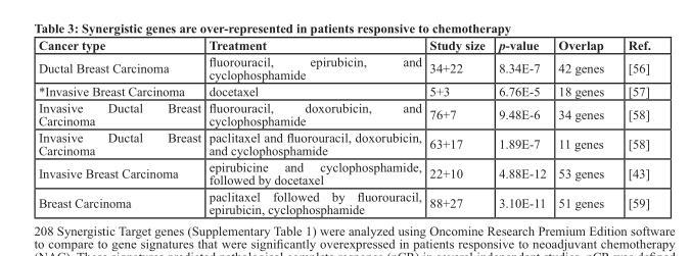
<table><thead><tr><td>Cancer type</td><td>Treatment</td><td>Study size</td><td>p-value</td><td>Overlap</td><td>Ref.</td></tr></thead><tbody><tr><td>Ductal Breast Carcinoma</td><td>fluorouracil, epirubicin, and cyclophosphamide</td><td>34+22</td><td>8.34E-7</td><td>42 genes</td><td>[56]</td></tr><tr><td>*Invasive Breast Carcinoma</td><td>docetaxel</td><td>5+3</td><td>6.76E-5</td><td>18 genes</td><td>[57]</td></tr><tr><td>Invasive Ductal Breast Carcinoma</td><td>fluorouracil, doxorubicin, and cyclophosphamide</td><td>76+7</td><td>9.48E-6</td><td>34 genes</td><td>[58]</td></tr><tr><td>Invasive Ductal Breast Carcinoma</td><td>paclitaxel and fluorouracil, doxorubicin, and cyclophosphamide</td><td>63+17</td><td>1.89E-7</td><td>11 genes</td><td>[58]</td></tr><tr><td>Invasive Breast Carcinoma</td><td>epirubicine and cyclophosphamide, followed by docetaxel</td><td>22+10</td><td>4.88E-12</td><td>53 genes</td><td>[43]</td></tr><tr><td>Breast Carcinoma</td><td>paclitaxel followed by fluorouracil, epirubicin, cyclophosphamide</td><td>88+27</td><td>3.10E-11</td><td>51 genes</td><td>[59]</td></tr></tbody></table>